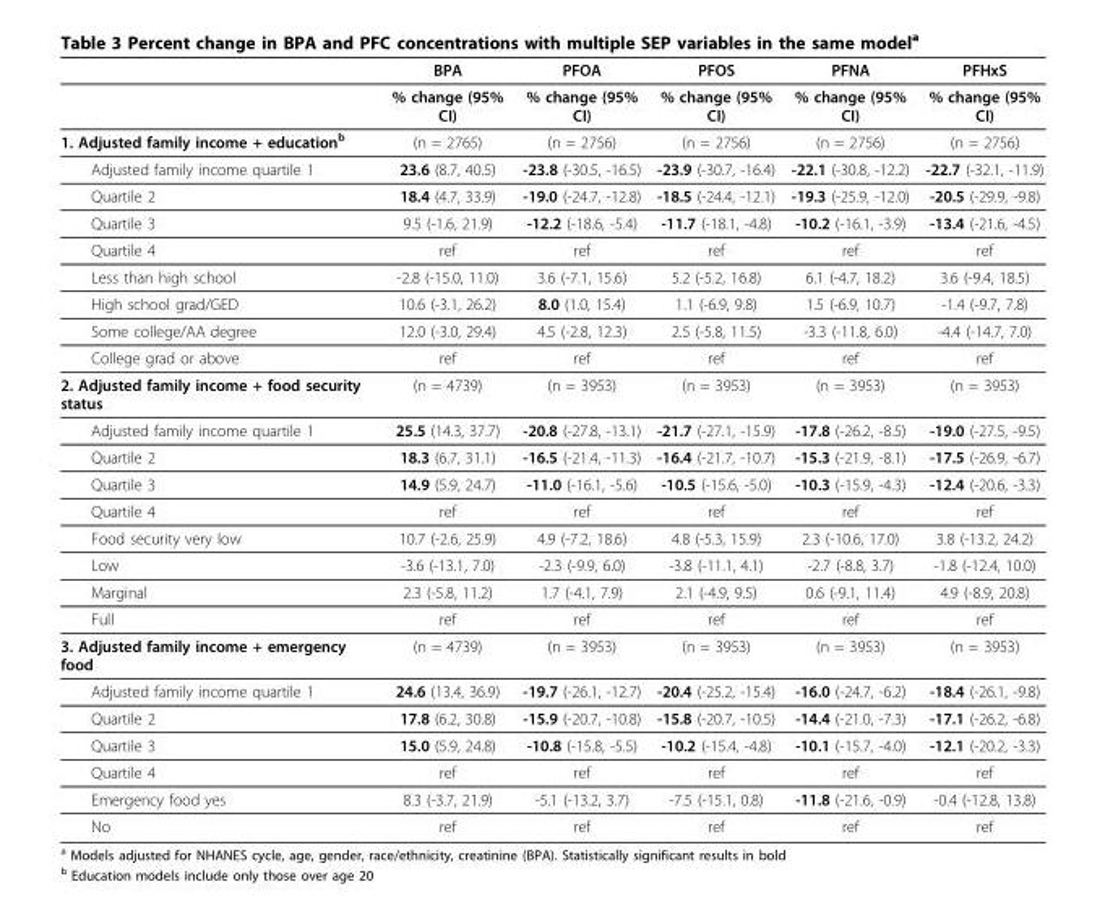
<table><thead><tr><td></td><td>BPA</td><td>PFOA</td><td>PFOS</td><td>PFNA</td><td>PFHxS</td></tr></thead><tbody><tr><td></td><td>% change (95% CI)</td><td>% change (95% CI)</td><td>% change (95% CI)</td><td>% change (95% CI)</td><td>% change (95% CI)</td></tr><tr><td>1. Adjusted family income + education<sup>b</sup></td><td>(n = 2765)</td><td>(n = 2756)</td><td>(n = 2756)</td><td>(n = 2756)</td><td>(n = 2756)</td></tr><tr><td>Adjusted family income quartile 1</td><td>23.6 (8.7, 40.5)</td><td>-23.8 (-30.5, -16.5)</td><td>-23.9 (-30.7, -16.4)</td><td>-22.1 (-30.8, -12.2)</td><td>-22.7 (-32.1, -11.9)</td></tr><tr><td>Quartile 2</td><td>18.4 (4.7, 33.9)</td><td>-19.0 (-24.7, -12.8)</td><td>-18.5 (-24.4, -12.1)</td><td>-19.3 (-25.9, -12.0)</td><td>-20.5 (-29.9, -9.8)</td></tr><tr><td>Quartile 3</td><td>9.5 (-1.6, 21.9)</td><td>-12.2 (-18.6, -5.4)</td><td>-11.7 (-18.1, -4.8)</td><td>-10.2 (-16.1, -3.9)</td><td>-13.4 (-21.6, -4.5)</td></tr><tr><td>Quartile 4</td><td>ref</td><td>ref</td><td>ref</td><td>ref</td><td>ref</td></tr><tr><td>Less than high school</td><td>-2.8 (-15.0, 11.0)</td><td>3.6 (-7.1, 15.6)</td><td>5.2 (-5.2, 16.8)</td><td>6.1 (-4.7, 18.2)</td><td>3.6 (-9.4, 18.5)</td></tr><tr><td>High school grad/GED</td><td>10.6 (-3.1, 26.2)</td><td>8.0 (1.0, 15.4)</td><td>1.1 (-6.9, 9.8)</td><td>1.5 (-6.9, 10.7)</td><td>-1.4 (-9.7, 7.8)</td></tr><tr><td>Some college/AA degree</td><td>12.0 (-3.0, 29.4)</td><td>4.5 (-2.8, 12.3)</td><td>2.5 (-5.8, 11.5)</td><td>-3.3 (-11.8, 6.0)</td><td>-4.4 (-14.7, 7.0)</td></tr><tr><td>College grad or above</td><td>ref</td><td>ref</td><td>ref</td><td>ref</td><td>ref</td></tr><tr><td>2. Adjusted family income + food security status</td><td>(n = 4739)</td><td>(n = 3953)</td><td>(n = 3953)</td><td>(n = 3953)</td><td>(n = 3953)</td></tr><tr><td>Adjusted family income quartile 1</td><td>25.5 (14.3, 37.7)</td><td>-20.8 (-27.8, -13.1)</td><td>-21.7 (-27.1, -15.9)</td><td>-17.8 (-26.2, -8.5)</td><td>-19.0 (-27.5, -9.5)</td></tr><tr><td>Quartile 2</td><td>18.3 (6.7, 31.1)</td><td>-16.5 (-21.4, -11.3)</td><td>-16.4 (-21.7, -10.7)</td><td>-15.3 (-21.9, -8.1)</td><td>-17.5 (-26.9, -6.7)</td></tr><tr><td>Quartile 3</td><td>14.9 (5.9, 24.7)</td><td>-11.0 (-16.1, -5.6)</td><td>-10.5 (-15.6, -5.0)</td><td>-10.3 (-15.9, -4.3)</td><td>-12.4 (-20.6, -3.3)</td></tr><tr><td>Quartile 4</td><td>ref</td><td>ref</td><td>ref</td><td>ref</td><td>ref</td></tr><tr><td>Food security very low</td><td>10.7 (-2.6, 25.9)</td><td>4.9 (-7.2, 18.6)</td><td>4.8 (-5.3, 15.9)</td><td>2.3 (-10.6, 17.0)</td><td>3.8 (-13.2, 24.2)</td></tr><tr><td>Low</td><td>-3.6 (-13.1, 7.0)</td><td>-2.3 (-9.9, 6.0)</td><td>-3.8 (-11.1, 4.1)</td><td>-2.7 (-8.8, 3.7)</td><td>-1.8 (-12.4, 10.0)</td></tr><tr><td>Marginal</td><td>2.3 (-5.8, 11.2)</td><td>1.7 (-4.1, 7.9)</td><td>2.1 (-4.9, 9.5)</td><td>0.6 (-9.1, 11.4)</td><td>4.9 (-8.9, 20.8)</td></tr><tr><td>Full</td><td>ref</td><td>ref</td><td>ref</td><td>ref</td><td>ref</td></tr><tr><td>3. Adjusted family income + emergency food</td><td>(n = 4739)</td><td>(n = 3953)</td><td>(n = 3953)</td><td>(n = 3953)</td><td>(n = 3953)</td></tr><tr><td>Adjusted family income quartile 1</td><td>24.6 (13.4, 36.9)</td><td>-19.7 (-26.1, -12.7)</td><td>-20.4 (-25.2, -15.4)</td><td>-16.0 (-24.7, -6.2)</td><td>-18.4 (-26.1, -9.8)</td></tr><tr><td>Quartile 2</td><td>17.8 (6.2, 30.8)</td><td>-15.9 (-20.7, -10.8)</td><td>-15.8 (-20.7, -10.5)</td><td>-14.4 (-21.0, -7.3)</td><td>-17.1 (-26.2, -6.8)</td></tr><tr><td>Quartile 3</td><td>15.0 (5.9, 24.8)</td><td>-10.8 (-15.8, -5.5)</td><td>-10.2 (-15.4, -4.8)</td><td>-10.1 (-15.7, -4.0)</td><td>-12.1 (-20.2, -3.3)</td></tr><tr><td>Quartile 4</td><td>ref</td><td>ref</td><td>ref</td><td>ref</td><td>ref</td></tr><tr><td>Emergency food yes</td><td>8.3 (-3.7, 21.9)</td><td>-5.1 (-13.2, 3.7)</td><td>-7.5 (-15.1, 0.8)</td><td>-11.8 (-21.6, -0.9)</td><td>-0.4 (-12.8, 13.8)</td></tr><tr><td>No</td><td>ref</td><td>ref</td><td>ref</td><td>ref</td><td>ref</td></tr></tbody></table>